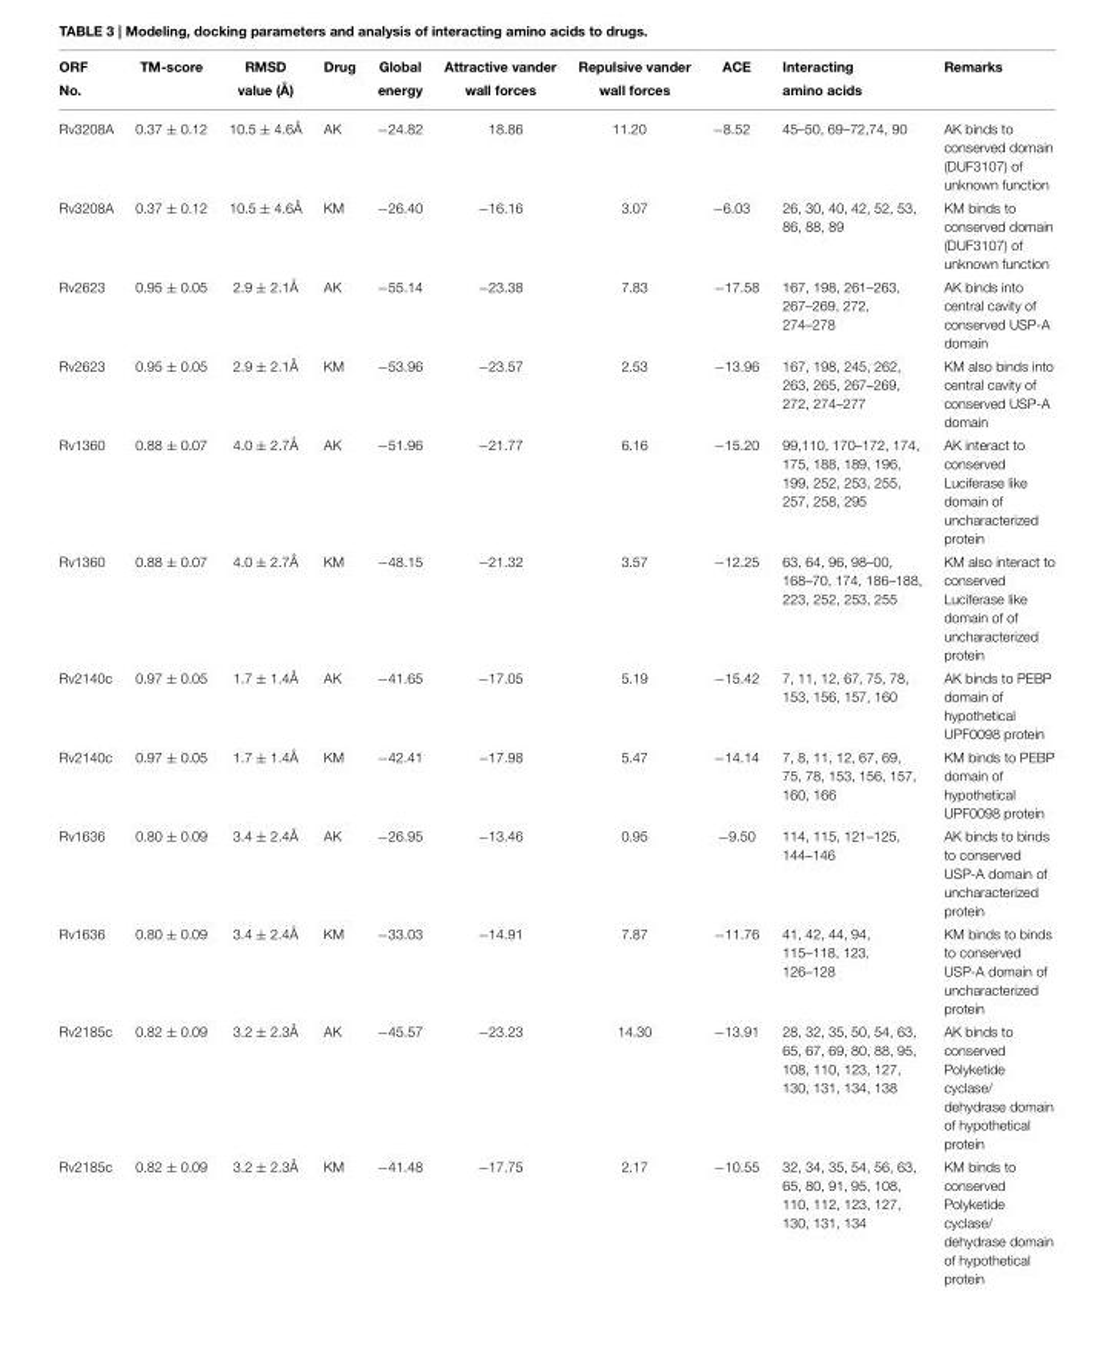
<table><thead><tr><td>ORF No.</td><td>TM-score</td><td>RMSD value (Å)</td><td>Drug</td><td>Global energy</td><td>Attractive vander wall forces</td><td>Repulsive vander wall forces</td><td>ACE</td><td>Interacting amino acids</td><td>Remarks</td></tr></thead><tbody><tr><td>Rv3208A</td><td>0.37 ± 0.12</td><td>10.5 ± 4.6Å</td><td>AK</td><td>−24.82</td><td>18.86</td><td>11.20</td><td>−8.52</td><td>45–50, 69–72,74, 90</td><td>AK binds to conserved domain (DUF3107) of unknown function</td></tr><tr><td>Rv3208A</td><td>0.37 ± 0.12</td><td>10.5 ± 4.6Å</td><td>KM</td><td>−26.40</td><td>−16.16</td><td>3.07</td><td>−6.03</td><td>26, 30, 40, 42, 52, 53, 86, 88, 89</td><td>KM binds to conserved domain (DUF3107) of unknown function</td></tr><tr><td>Rv2623</td><td>0.95 ± 0.05</td><td>2.9 ± 2.1Å</td><td>AK</td><td>−55.14</td><td>−23.38</td><td>7.83</td><td>−17.58</td><td>167, 198, 261–263, 267–269, 272, 274–278</td><td>AK binds into central cavity of conserved USP-A domain</td></tr><tr><td>Rv2623</td><td>0.95 ± 0.05</td><td>2.9 ± 2.1Å</td><td>KM</td><td>−53.96</td><td>−23.57</td><td>2.53</td><td>−13.96</td><td>167, 198, 245, 262, 263, 265, 267–269, 272, 274–277</td><td>KM also binds into central cavity of conserved USP-A domain</td></tr><tr><td>Rv1360</td><td>0.88 ± 0.07</td><td>4.0 ± 2.7Å</td><td>AK</td><td>−51.96</td><td>−21.77</td><td>6.16</td><td>−15.20</td><td>99,110, 170–172, 174, 175, 188, 189, 196, 199, 252, 253, 255, 257, 258, 295</td><td>AK interact to conserved Luciferase like domain of uncharacterized protein</td></tr><tr><td>Rv1360</td><td>0.88 ± 0.07</td><td>4.0 ± 2.7Å</td><td>KM</td><td>−48.15</td><td>−21.32</td><td>3.57</td><td>−12.25</td><td>63, 64, 96, 98–00, 168–70, 174, 186–188, 223, 252, 253, 255</td><td>KM also interact to conserved Luciferase like domain of of uncharacterized protein</td></tr><tr><td>Rv2140c</td><td>0.97 ± 0.05</td><td>1.7 ± 1.4Å</td><td>AK</td><td>−41.65</td><td>−17.05</td><td>5.19</td><td>−15.42</td><td>7, 11, 12, 67, 75, 78, 153, 156, 157, 160</td><td>AK binds to PEBP domain of hypothetical UPF0098 protein</td></tr><tr><td>Rv2140c</td><td>0.97 ± 0.05</td><td>1.7 ± 1.4Å</td><td>KM</td><td>−42.41</td><td>−17.98</td><td>5.47</td><td>−14.14</td><td>7, 8, 11, 12, 67, 69, 75, 78, 153, 156, 157, 160, 166</td><td>KM binds to PEBP domain of hypothetical UPF0098 protein</td></tr><tr><td>Rv1636</td><td>0.80 ± 0.09</td><td>3.4 ± 2.4Å</td><td>AK</td><td>−26.95</td><td>−13.46</td><td>0.95</td><td>−9.50</td><td>114, 115, 121–125, 144–146</td><td>AK binds to binds to conserved USP-A domain of uncharacterized protein</td></tr><tr><td>Rv1636</td><td>0.80 ± 0.09</td><td>3.4 ± 2.4Å</td><td>KM</td><td>−33.03</td><td>−14.91</td><td>7.87</td><td>−11.76</td><td>41, 42, 44, 94, 115–118, 123, 126–128</td><td>KM binds to binds to conserved USP-A domain of uncharacterized protein</td></tr><tr><td>Rv2185c</td><td>0.82 ± 0.09</td><td>3.2 ± 2.3Å</td><td>AK</td><td>−45.57</td><td>−23.23</td><td>14.30</td><td>−13.91</td><td>28, 32, 35, 50, 54, 63, 65, 67, 69, 80, 88, 95, 108, 110, 123, 127, 130, 131, 134, 138</td><td>AK binds to conserved Polyketide cyclase/ dehydrase domain of hypothetical protein</td></tr><tr><td>Rv2185c</td><td>0.82 ± 0.09</td><td>3.2 ± 2.3Å</td><td>KM</td><td>−41.48</td><td>−17.75</td><td>2.17</td><td>−10.55</td><td>32, 34, 35, 54, 56, 63, 65, 80, 91, 95, 108, 110, 112, 123, 127, 130, 131, 134</td><td>KM binds to conserved Polyketide cyclase/ dehydrase domain of hypothetical protein</td></tr></tbody></table>